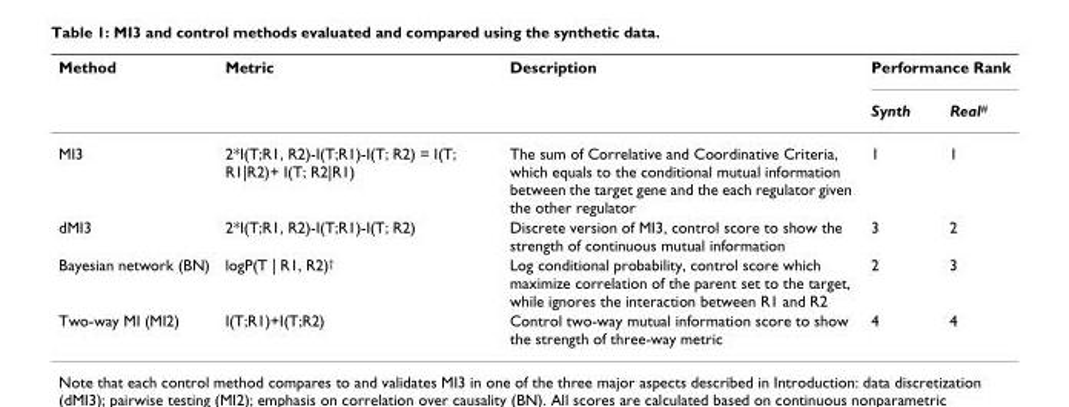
<table><thead><tr><td rowspan="2">Method</td><td rowspan="2">Metric</td><td rowspan="2">Description</td><td colspan="2">Performance Rank</td></tr><tr><td>Synth</td><td>Real<sup>#</sup></td></tr></thead><tbody><tr><td>MI3</td><td>2*I(T;R1, R2)-I(T;R1)-I(T; R2) = I(T; R1|R2)+ I(T; R2|R1)</td><td>The sum of Correlative and Coordinative Criteria, which equals to the conditional mutual information between the target gene and the each regulator given the other regulator</td><td>1</td><td>1</td></tr><tr><td>dMI3</td><td>2*I(T;R1, R2)-I(T;R1)-I(T; R2)</td><td>Discrete version of MI3, control score to show the strength of continuous mutual information</td><td>3</td><td>2</td></tr><tr><td>Bayesian network (BN)</td><td>logP(T | R1, R2)<sup>†</sup></td><td>Log conditional probability, control score which maximize correlation of the parent set to the target, while ignores the interaction between R1 and R2</td><td>2</td><td>3</td></tr><tr><td>Two-way MI (MI2)</td><td>I(T;R1)+I(T;R2)</td><td>Control two-way mutual information score to show the strength of three-way metric</td><td>4</td><td>4</td></tr></tbody></table>